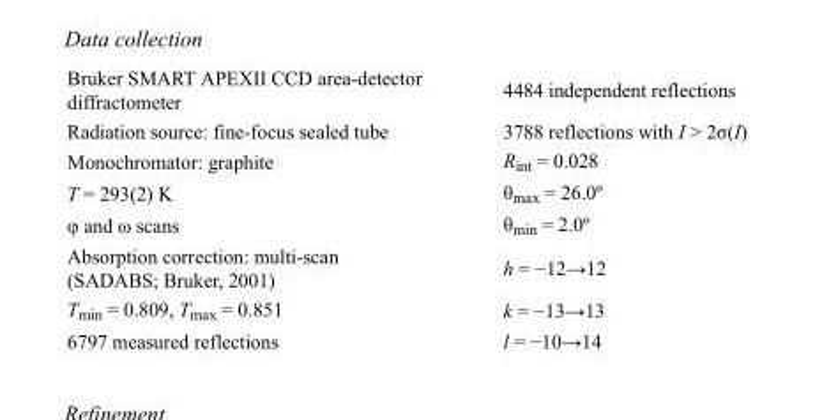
<table><tbody><tr><td>Bruker SMART APEXII CCD area-detector diffractometer</td><td>4484 independent reflections</td></tr><tr><td>Radiation source: fine-focus sealed tube</td><td>3788 reflections with I &gt; 2σ(I)</td></tr><tr><td>Monochromator: graphite</td><td>R<sub>int</sub> = 0.028</td></tr><tr><td>T = 293(2) K</td><td>θ<sub>max</sub> = 26.0º</td></tr><tr><td>φ and ω scans</td><td>θ<sub>min</sub> = 2.0º</td></tr><tr><td>Absorption correction: multi-scan (SADABS; Bruker, 2001)</td><td>h = −12→12</td></tr><tr><td>T<sub>min</sub> = 0.809, T<sub>max</sub> = 0.851</td><td>k = −13→13</td></tr><tr><td>6797 measured reflections</td><td>l = −10→14</td></tr></tbody></table>